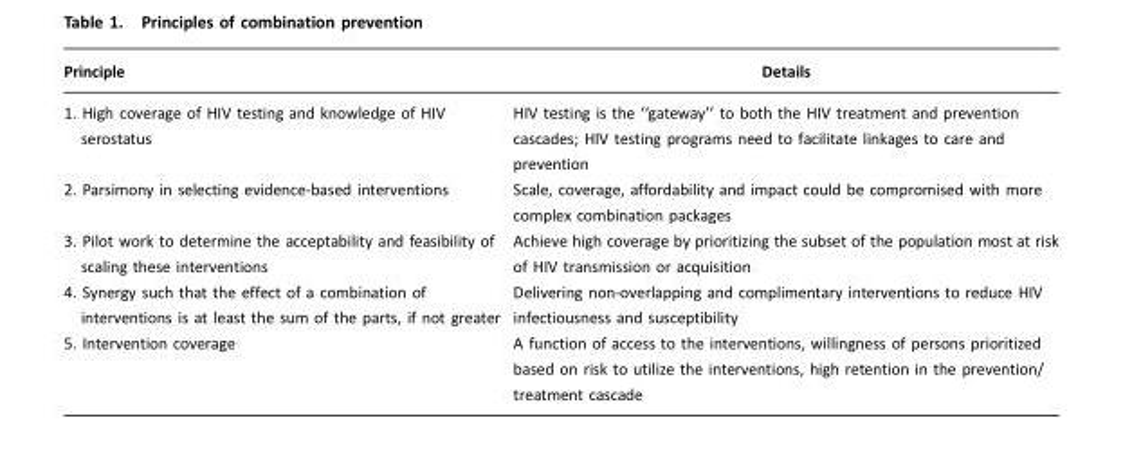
<table><thead><tr><td>Principle</td><td>Details</td></tr></thead><tbody><tr><td>1. High coverage of HIV testing and knowledge of HIV serostatus</td><td>HIV testing is the ‘‘gateway’’ to both the HIV treatment and prevention cascades; HIV testing programs need to facilitate linkages to care and prevention</td></tr><tr><td>2. Parsimony in selecting evidence-based interventions</td><td>Scale, coverage, affordability and impact could be compromised with more complex combination packages</td></tr><tr><td>3. Pilot work to determine the acceptability and feasibility of scaling these interventions</td><td>Achieve high coverage by prioritizing the subset of the population most at risk of HIV transmission or acquisition</td></tr><tr><td>4. Synergy such that the effect of a combination of interventions is at least the sum of the parts, if not greater</td><td>Delivering non-overlapping and complimentary interventions to reduce HIV infectiousness and susceptibility</td></tr><tr><td>5. Intervention coverage</td><td>A function of access to the interventions, willingness of persons prioritized based on risk to utilize the interventions, high retention in the prevention/ treatment cascade</td></tr></tbody></table>